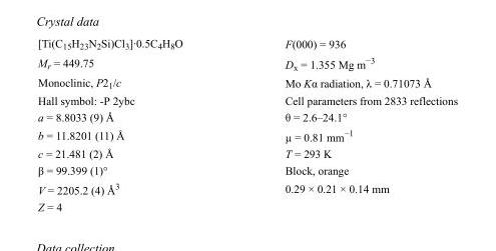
<table><tbody><tr><td>[Ti(C<sub>15</sub>H<sub>23</sub>N<sub>2</sub>Si)Cl<sub>3</sub>]·0.5C<sub>4</sub>H<sub>8</sub>O</td><td>F(000) = 936</td></tr><tr><td>M<sub>r</sub> = 449.75</td><td>D<sub>x</sub> = 1.355 Mg m<sup>−3</sup></td></tr><tr><td>Monoclinic, P2<sub>1</sub>/c</td><td>Mo Kα radiation, λ = 0.71073 Å</td></tr><tr><td>Hall symbol: -P 2ybc</td><td>Cell parameters from 2833 reflections</td></tr><tr><td>a = 8.8033 (9) Å</td><td>θ = 2.6–24.1°</td></tr><tr><td>b = 11.8201 (11) Å</td><td>µ = 0.81 mm<sup>−1</sup></td></tr><tr><td>c = 21.481 (2) Å</td><td>T = 293 K</td></tr><tr><td>β = 99.399 (1)°</td><td>Block, orange</td></tr><tr><td>V = 2205.2 (4) Å<sup>3</sup></td><td>0.29 × 0.21 × 0.14 mm</td></tr><tr><td>Z = 4</td><td></td></tr></tbody></table>